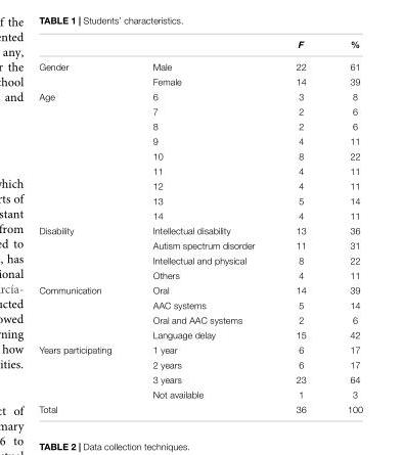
<table><thead><tr><td></td><td></td><td>F</td><td>%</td></tr></thead><tbody><tr><td rowspan="2">Gender</td><td>Male</td><td>22</td><td>61</td></tr><tr><td>Female</td><td>14</td><td>39</td></tr><tr><td rowspan="9">Age</td><td>6</td><td>3</td><td>8</td></tr><tr><td>7</td><td>2</td><td>6</td></tr><tr><td>8</td><td>2</td><td>6</td></tr><tr><td>9</td><td>4</td><td>11</td></tr><tr><td>10</td><td>8</td><td>22</td></tr><tr><td>11</td><td>4</td><td>11</td></tr><tr><td>12</td><td>4</td><td>11</td></tr><tr><td>13</td><td>5</td><td>14</td></tr><tr><td>14</td><td>4</td><td>11</td></tr><tr><td rowspan="4">Disability</td><td>Intellectual disability</td><td>13</td><td>36</td></tr><tr><td>Autism spectrum disorder</td><td>11</td><td>31</td></tr><tr><td>Intellectual and physical</td><td>8</td><td>22</td></tr><tr><td>Others</td><td>4</td><td>11</td></tr><tr><td rowspan="4">Communication</td><td>Oral</td><td>14</td><td>39</td></tr><tr><td>AAC systems</td><td>5</td><td>14</td></tr><tr><td>Oral and AAC systems</td><td>2</td><td>6</td></tr><tr><td>Language delay</td><td>15</td><td>42</td></tr><tr><td rowspan="4">Years participating</td><td>1 year</td><td>6</td><td>17</td></tr><tr><td>2 years</td><td>6</td><td>17</td></tr><tr><td>3 years</td><td>23</td><td>64</td></tr><tr><td>Not available</td><td>1</td><td>3</td></tr><tr><td>Total</td><td></td><td>36</td><td>100</td></tr></tbody></table>